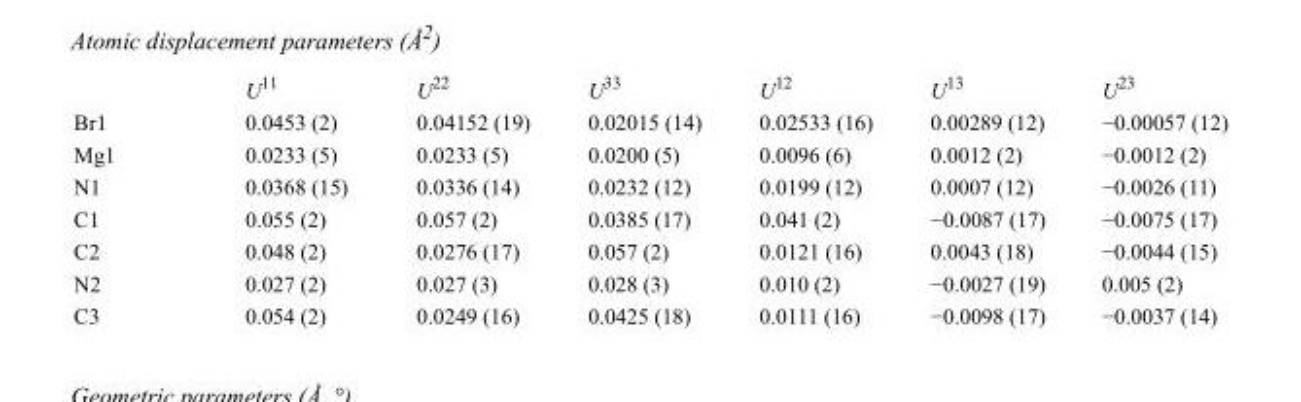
<table><thead><tr><td></td><td>U<sup>11</sup></td><td>U<sup>22</sup></td><td>U<sup>33</sup></td><td>U<sup>12</sup></td><td>U<sup>13</sup></td><td>U<sup>23</sup></td></tr></thead><tbody><tr><td>Br1</td><td>0.0453 (2)</td><td>0.04152 (19)</td><td>0.02015 (14)</td><td>0.02533 (16)</td><td>0.00289 (12)</td><td>−0.00057 (12)</td></tr><tr><td>Mg1</td><td>0.0233 (5)</td><td>0.0233 (5)</td><td>0.0200 (5)</td><td>0.0096 (6)</td><td>0.0012 (2)</td><td>−0.0012 (2)</td></tr><tr><td>N1</td><td>0.0368 (15)</td><td>0.0336 (14)</td><td>0.0232 (12)</td><td>0.0199 (12)</td><td>0.0007 (12)</td><td>−0.0026 (11)</td></tr><tr><td>C1</td><td>0.055 (2)</td><td>0.057 (2)</td><td>0.0385 (17)</td><td>0.041 (2)</td><td>−0.0087 (17)</td><td>−0.0075 (17)</td></tr><tr><td>C2</td><td>0.048 (2)</td><td>0.0276 (17)</td><td>0.057 (2)</td><td>0.0121 (16)</td><td>0.0043 (18)</td><td>−0.0044 (15)</td></tr><tr><td>N2</td><td>0.027 (2)</td><td>0.027 (3)</td><td>0.028 (3)</td><td>0.010 (2)</td><td>−0.0027 (19)</td><td>0.005 (2)</td></tr><tr><td>C3</td><td>0.054 (2)</td><td>0.0249 (16)</td><td>0.0425 (18)</td><td>0.0111 (16)</td><td>−0.0098 (17)</td><td>−0.0037 (14)</td></tr></tbody></table>